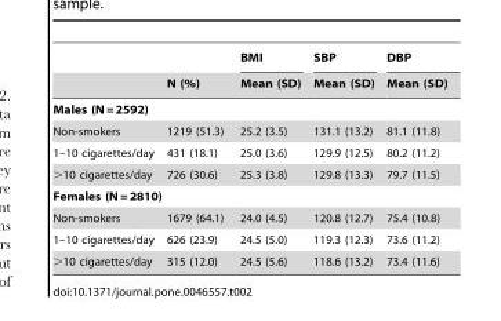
<table><thead><tr><td rowspan="2"></td><td rowspan="2">N (%)</td><td rowspan="2">BMI Mean (SD)</td><td rowspan="2">SBP Mean (SD)</td><td rowspan="2">DBP Mean (SD)</td></tr><tr></tr></thead><tbody><tr><td colspan="5">Males (N = 2592)</td></tr><tr><td>Non-smokers</td><td>1219 (51.3)</td><td>25.2 (3.5)</td><td>131.1 (13.2)</td><td>81.1 (11.8)</td></tr><tr><td>1–10 cigarettes/day</td><td>431 (18.1)</td><td>25.0 (3.6)</td><td>129.9 (12.5)</td><td>80.2 (11.2)</td></tr><tr><td>&gt;10 cigarettes/day</td><td>726 (30.6)</td><td>25.3 (3.8)</td><td>129.8 (13.3)</td><td>79.7 (11.5)</td></tr><tr><td colspan="5">Females (N = 2810)</td></tr><tr><td>Non-smokers</td><td>1679 (64.1)</td><td>24.0 (4.5)</td><td>120.8 (12.7)</td><td>75.4 (10.8)</td></tr><tr><td>1–10 cigarettes/day</td><td>626 (23.9)</td><td>24.5 (5.0)</td><td>119.3 (12.3)</td><td>73.6 (11.2)</td></tr><tr><td>&gt;10 cigarettes/day</td><td>315 (12.0)</td><td>24.5 (5.6)</td><td>118.6 (13.2)</td><td>73.4 (11.6)</td></tr></tbody></table>